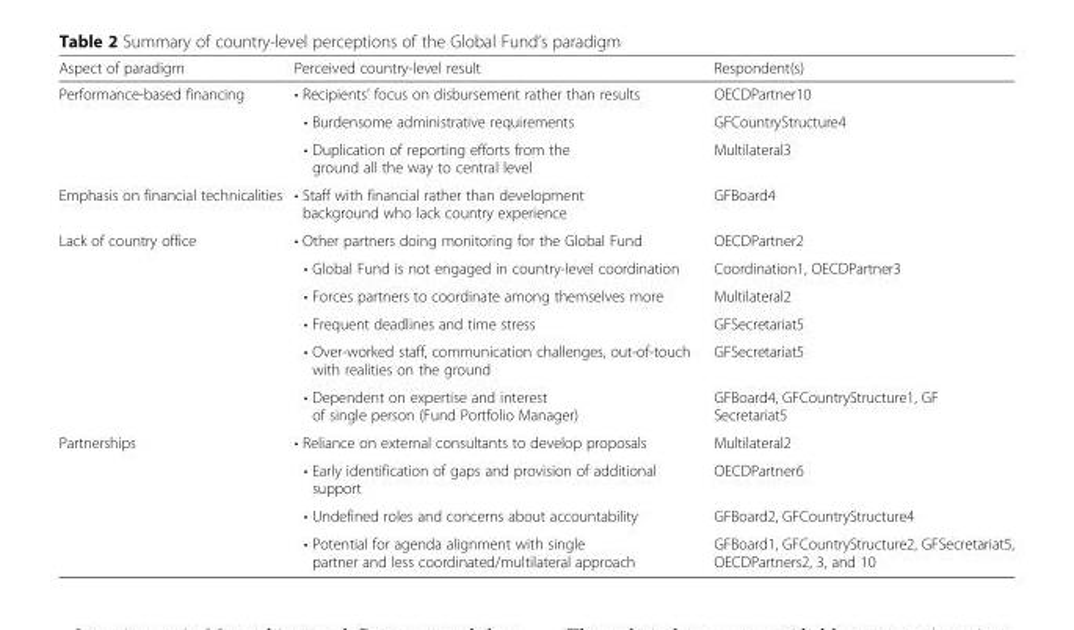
<table><thead><tr><td>Aspect of paradigm</td><td>Perceived country-level result</td><td>Respondent(s)</td></tr></thead><tbody><tr><td rowspan="3">Performance-based financing</td><td>• Recipients’ focus on disbursement rather than results</td><td>OECDPartner10</td></tr><tr><td>• Burdensome administrative requirements</td><td>GFCountryStructure4</td></tr><tr><td>• Duplication of reporting efforts from the ground all the way to central level</td><td>Multilateral3</td></tr><tr><td>Emphasis on financial technicalities</td><td>• Staff with financial rather than development background who lack country experience</td><td>GFBoard4</td></tr><tr><td rowspan="6">Lack of country office</td><td>• Other partners doing monitoring for the Global Fund</td><td>OECDPartner2</td></tr><tr><td>• Global Fund is not engaged in country-level coordination</td><td>Coordination1, OECDPartner3</td></tr><tr><td>• Forces partners to coordinate among themselves more</td><td>Multilateral2</td></tr><tr><td>• Frequent deadlines and time stress</td><td>GFSecretariat5</td></tr><tr><td>• Over-worked staff, communication challenges, out-of-touch with realities on the ground</td><td>GFSecretariat5</td></tr><tr><td>• Dependent on expertise and interest of single person (Fund Portfolio Manager)</td><td>GFBoard4, GFCountryStructure1, GF Secretariat5</td></tr><tr><td rowspan="4">Partnerships</td><td>• Reliance on external consultants to develop proposals</td><td>Multilateral2</td></tr><tr><td>• Early identification of gaps and provision of additional support</td><td>OECDPartner6</td></tr><tr><td>• Undefined roles and concerns about accountability</td><td>GFBoard2, GFCountryStructure4</td></tr><tr><td>• Potential for agenda alignment with single partner and less coordinated/multilateral approach</td><td>GFBoard1, GFCountryStructure2, GFSecretariat5, OECDPartners2, 3, and 10</td></tr></tbody></table>